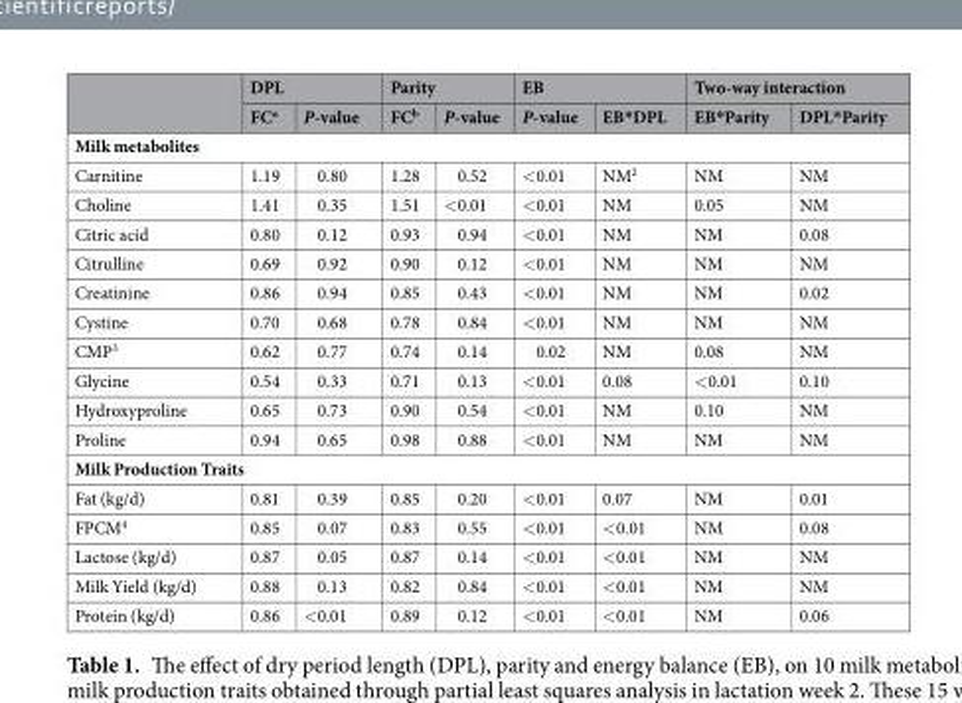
<table><thead><tr><td rowspan="2"></td><td colspan="2">DPL</td><td colspan="2">Parity</td><td colspan="2">EB</td><td colspan="2">Two-way interaction</td></tr><tr><td>FC<sup>a</sup></td><td>P-value</td><td>FC<sup>b</sup></td><td>P-value</td><td>P-value</td><td>EB*DPL</td><td>EB*Parity</td><td>DPL*Parity</td></tr></thead><tbody><tr><td colspan="9">Milk metabolites</td></tr><tr><td>Carnitine</td><td>1.19</td><td>0.80</td><td>1.28</td><td>0.52</td><td>&lt;0.01</td><td>NM<sup>2</sup></td><td>NM</td><td>NM</td></tr><tr><td>Choline</td><td>1.41</td><td>0.35</td><td>1.51</td><td>&lt;0.01</td><td>&lt;0.01</td><td>NM</td><td>0.05</td><td>NM</td></tr><tr><td>Citric acid</td><td>0.80</td><td>0.12</td><td>0.93</td><td>0.94</td><td>&lt;0.01</td><td>NM</td><td>NM</td><td>0.08</td></tr><tr><td>Citrulline</td><td>0.69</td><td>0.92</td><td>0.90</td><td>0.12</td><td>&lt;0.01</td><td>NM</td><td>NM</td><td>NM</td></tr><tr><td>Creatinine</td><td>0.86</td><td>0.94</td><td>0.85</td><td>0.43</td><td>&lt;0.01</td><td>NM</td><td>NM</td><td>0.02</td></tr><tr><td>Cystine</td><td>0.70</td><td>0.68</td><td>0.78</td><td>0.84</td><td>&lt;0.01</td><td>NM</td><td>NM</td><td>NM</td></tr><tr><td>CMP<sup>3</sup></td><td>0.62</td><td>0.77</td><td>0.74</td><td>0.14</td><td>0.02</td><td>NM</td><td>0.08</td><td>NM</td></tr><tr><td>Glycine</td><td>0.54</td><td>0.33</td><td>0.71</td><td>0.13</td><td>&lt;0.01</td><td>0.08</td><td>&lt;0.01</td><td>0.10</td></tr><tr><td>Hydroxyproline</td><td>0.65</td><td>0.73</td><td>0.90</td><td>0.54</td><td>&lt;0.01</td><td>NM</td><td>0.10</td><td>NM</td></tr><tr><td>Proline</td><td>0.94</td><td>0.65</td><td>0.98</td><td>0.88</td><td>&lt;0.01</td><td>NM</td><td>NM</td><td>NM</td></tr><tr><td colspan="9">Milk Production Traits</td></tr><tr><td>Fat (kg/d)</td><td>0.81</td><td>0.39</td><td>0.85</td><td>0.20</td><td>&lt;0.01</td><td>0.07</td><td>NM</td><td>0.01</td></tr><tr><td>FPCM<sup>4</sup></td><td>0.85</td><td>0.07</td><td>0.83</td><td>0.55</td><td>&lt;0.01</td><td>&lt;0.01</td><td>NM</td><td>0.08</td></tr><tr><td>Lactose (kg/d)</td><td>0.87</td><td>0.05</td><td>0.87</td><td>0.14</td><td>&lt;0.01</td><td>&lt;0.01</td><td>NM</td><td>NM</td></tr><tr><td>Milk Yield (kg/d)</td><td>0.88</td><td>0.13</td><td>0.82</td><td>0.84</td><td>&lt;0.01</td><td>&lt;0.01</td><td>NM</td><td>NM</td></tr><tr><td>Protein (kg/d)</td><td>0.86</td><td>&lt;0.01</td><td>0.89</td><td>0.12</td><td>&lt;0.01</td><td>&lt;0.01</td><td>NM</td><td>0.06</td></tr></tbody></table>